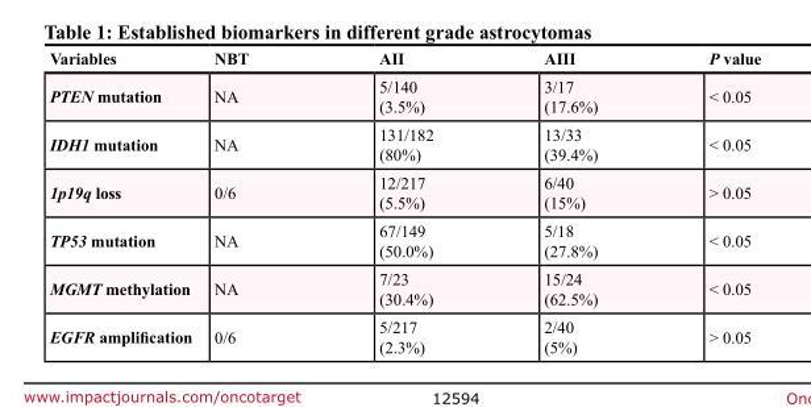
<table><thead><tr><td>Variables</td><td>NBT</td><td>AII</td><td>AIII</td><td>P value</td></tr></thead><tbody><tr><td>PTEN mutation</td><td>NA</td><td>5/140 (3.5%)</td><td>3/17 (17.6%)</td><td>&lt; 0.05</td></tr><tr><td>IDH1 mutation</td><td>NA</td><td>131/182 (80%)</td><td>13/33 (39.4%)</td><td>&lt; 0.05</td></tr><tr><td>1p19q loss</td><td>0/6</td><td>12/217 (5.5%)</td><td>6/40 (15%)</td><td>&gt; 0.05</td></tr><tr><td>TP53 mutation</td><td>NA</td><td>67/149 (50.0%)</td><td>5/18 (27.8%)</td><td>&lt; 0.05</td></tr><tr><td>MGMT methylation</td><td>NA</td><td>7/23 (30.4%)</td><td>15/24 (62.5%)</td><td>&lt; 0.05</td></tr><tr><td>EGFR amplification</td><td>0/6</td><td>5/217 (2.3%)</td><td>2/40 (5%)</td><td>&gt; 0.05</td></tr></tbody></table>